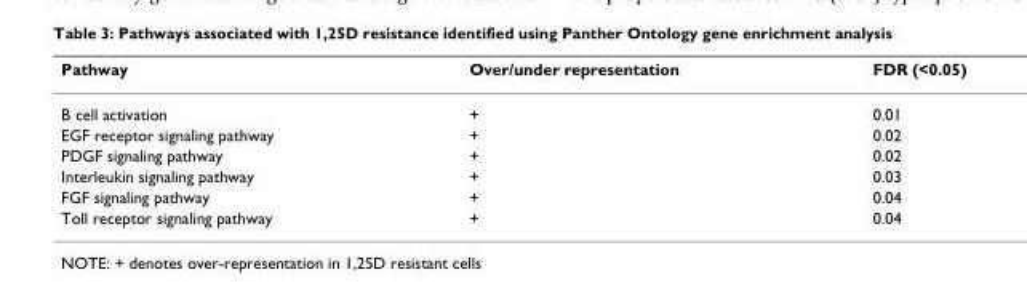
<table><thead><tr><td>Pathway</td><td>Over/under representation</td><td>FDR (&lt;0.05)</td></tr></thead><tbody><tr><td>B cell activation</td><td>+</td><td>0.01</td></tr><tr><td>EGF receptor signaling pathway</td><td>+</td><td>0.02</td></tr><tr><td>PDGF signaling pathway</td><td>+</td><td>0.02</td></tr><tr><td>Interleukin signaling pathway</td><td>+</td><td>0.03</td></tr><tr><td>FGF signaling pathway</td><td>+</td><td>0.04</td></tr><tr><td>Toll receptor signaling pathway</td><td>+</td><td>0.04</td></tr></tbody></table>